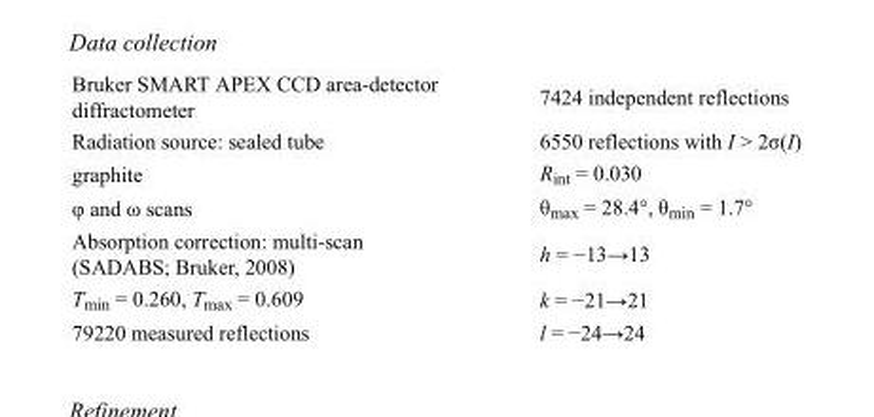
<table><tbody><tr><td>Bruker SMART APEX CCD area-detector diffractometer</td><td>7424 independent reflections</td></tr><tr><td>Radiation source: sealed tube</td><td>6550 reflections with I &gt; 2σ(I)</td></tr><tr><td>graphite</td><td>R<sub>int</sub> = 0.030</td></tr><tr><td>φ and ω scans</td><td>θ<sub>max</sub> = 28.4°, θ<sub>min</sub> = 1.7°</td></tr><tr><td>Absorption correction: multi-scan (SADABS; Bruker, 2008)</td><td>h = −13→13</td></tr><tr><td>T<sub>min</sub> = 0.260, T<sub>max</sub> = 0.609</td><td>k = −21→21</td></tr><tr><td>79220 measured reflections</td><td>l = −24→24</td></tr></tbody></table>